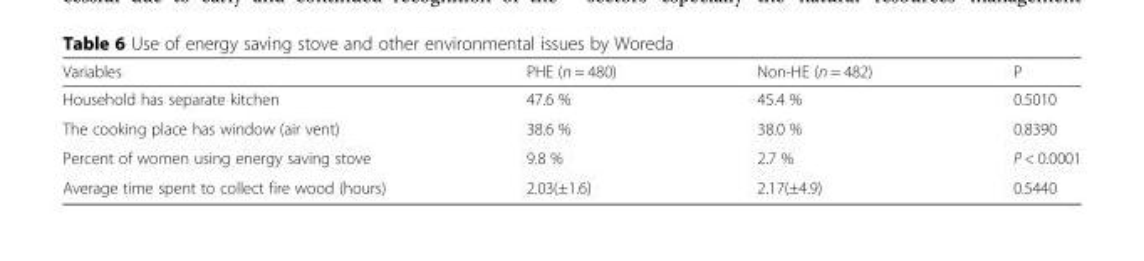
<table><thead><tr><td>Variables</td><td>PHE (n = 480)</td><td>Non-HE (n = 482)</td><td>P</td></tr></thead><tbody><tr><td>Household has separate kitchen</td><td>47.6 %</td><td>45.4 %</td><td>0.5010</td></tr><tr><td>The cooking place has window (air vent)</td><td>38.6 %</td><td>38.0 %</td><td>0.8390</td></tr><tr><td>Percent of women using energy saving stove</td><td>9.8 %</td><td>2.7 %</td><td>P &lt; 0.0001</td></tr><tr><td>Average time spent to collect fire wood (hours)</td><td>2.03(±1.6)</td><td>2.17(±4.9)</td><td>0.5440</td></tr></tbody></table>